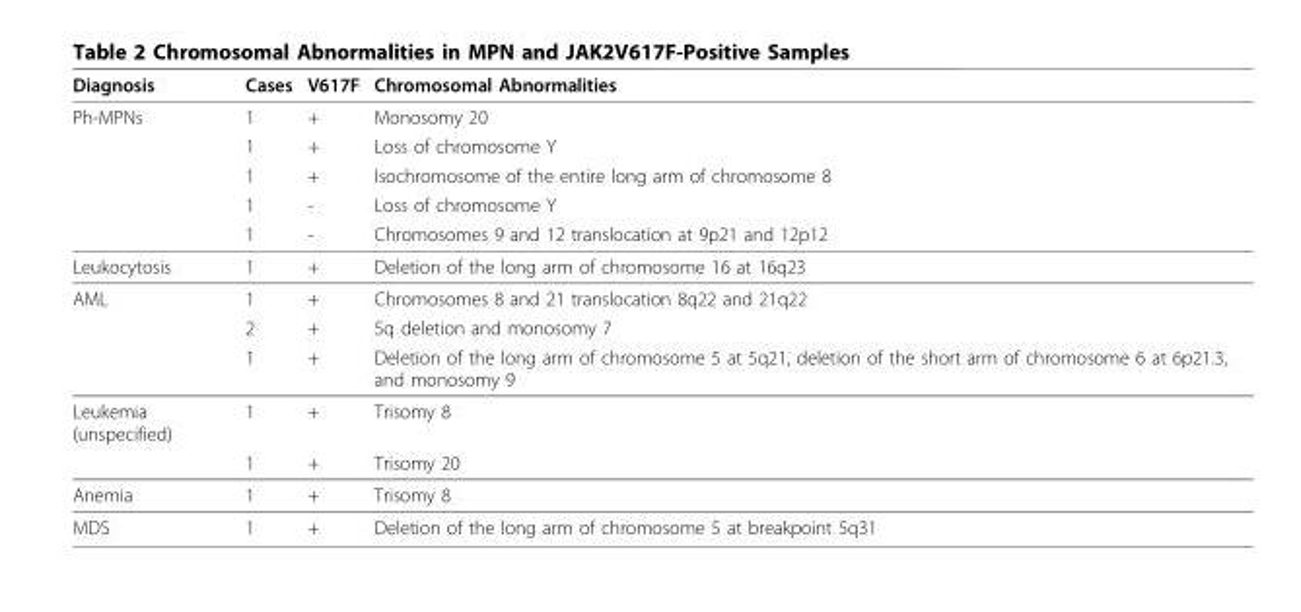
<table><thead><tr><td rowspan="6">Diagnosis Ph-MPNs</td><td rowspan="6">Cases 1 1 1 1 1</td><td rowspan="6">V617F + + + - -</td><td rowspan="6">Chromosomal Abnormalities Monosomy 20 Loss of chromosome Y Isochromosome of the entire long arm of chromosome 8 Loss of chromosome Y Chromosomes 9 and 12 translocation at 9p21 and 12p12</td></tr><tr></tr><tr></tr><tr></tr><tr></tr><tr></tr></thead><tbody><tr><td>Leukocytosis</td><td>1</td><td>+</td><td>Deletion of the long arm of chromosome 16 at 16q23</td></tr><tr><td rowspan="3">AML</td><td>1</td><td>+</td><td>Chromosomes 8 and 21 translocation 8q22 and 21q22</td></tr><tr><td>2</td><td>+</td><td>5q deletion and monosomy 7</td></tr><tr><td>1</td><td>+</td><td>Deletion of the long arm of chromosome 5 at 5q21, deletion of the short arm of chromosome 6 at 6p21.3, and monosomy 9</td></tr><tr><td rowspan="2">Leukemia (unspecified)</td><td>1</td><td>+</td><td>Trisomy 8</td></tr><tr><td>1</td><td>+</td><td>Trisomy 20</td></tr><tr><td>Anemia</td><td>1</td><td>+</td><td>Trisomy 8</td></tr><tr><td>MDS</td><td>1</td><td>+</td><td>Deletion of the long arm of chromosome 5 at breakpoint 5q31</td></tr></tbody></table>